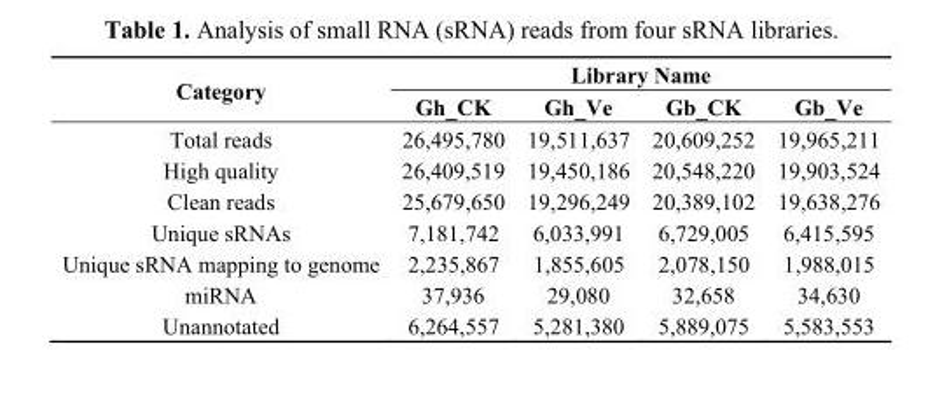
<table><thead><tr><td rowspan="2">Category</td><td colspan="4">Library Name</td></tr><tr><td>Gh_CK</td><td>Gh_Ve</td><td>Gb_CK</td><td>Gb_Ve</td></tr></thead><tbody><tr><td>Total reads</td><td>26,495,780</td><td>19,511,637</td><td>20,609,252</td><td>19,965,211</td></tr><tr><td>High quality</td><td>26,409,519</td><td>19,450,186</td><td>20,548,220</td><td>19,903,524</td></tr><tr><td>Clean reads</td><td>25,679,650</td><td>19,296,249</td><td>20,389,102</td><td>19,638,276</td></tr><tr><td>Unique sRNAs</td><td>7,181,742</td><td>6,033,991</td><td>6,729,005</td><td>6,415,595</td></tr><tr><td>Unique sRNA mapping to genome</td><td>2,235,867</td><td>1,855,605</td><td>2,078,150</td><td>1,988,015</td></tr><tr><td>miRNA</td><td>37,936</td><td>29,080</td><td>32,658</td><td>34,630</td></tr><tr><td>Unannotated</td><td>6,264,557</td><td>5,281,380</td><td>5,889,075</td><td>5,583,553</td></tr></tbody></table>